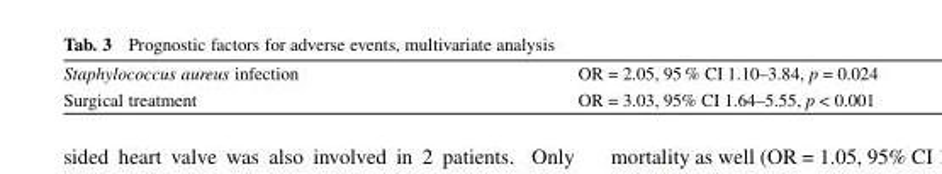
<table><tbody><tr><td>Staphylococcus aureus infection</td><td>OR = 2.05, 95 % CI 1.10–3.84, p = 0.024</td></tr><tr><td>Surgical treatment</td><td>OR = 3.03, 95% CI 1.64–5.55, p &lt; 0.001</td></tr></tbody></table>